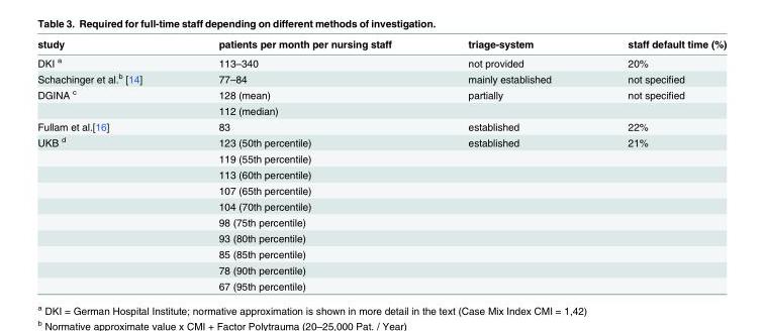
<table><thead><tr><td>study</td><td>patients per month per nursing staff</td><td>triage-system</td><td>staff default time (%)</td></tr></thead><tbody><tr><td>DKI <sup>a</sup></td><td>113–340</td><td>not provided</td><td>20%</td></tr><tr><td>Schachinger et al.<sup>b</sup> [14]</td><td>77–84</td><td>mainly established</td><td>not specified</td></tr><tr><td rowspan="2">DGINA <sup>c</sup></td><td>128 (mean)</td><td>partially</td><td>not specified</td></tr><tr><td>112 (median)</td><td></td><td></td></tr><tr><td>Fullam et al.[16]</td><td>83</td><td>established</td><td>22%</td></tr><tr><td rowspan="10">UKB <sup>d</sup></td><td>123 (50th percentile)</td><td>established</td><td>21%</td></tr><tr><td>119 (55th percentile)</td><td></td><td></td></tr><tr><td>113 (60th percentile)</td><td></td><td></td></tr><tr><td>107 (65th percentile)</td><td></td><td></td></tr><tr><td>104 (70th percentile)</td><td></td><td></td></tr><tr><td>98 (75th percentile)</td><td></td><td></td></tr><tr><td>93 (80th percentile)</td><td></td><td></td></tr><tr><td>85 (85th percentile)</td><td></td><td></td></tr><tr><td>78 (90th percentile)</td><td></td><td></td></tr><tr><td>67 (95th percentile)</td><td></td><td></td></tr></tbody></table>